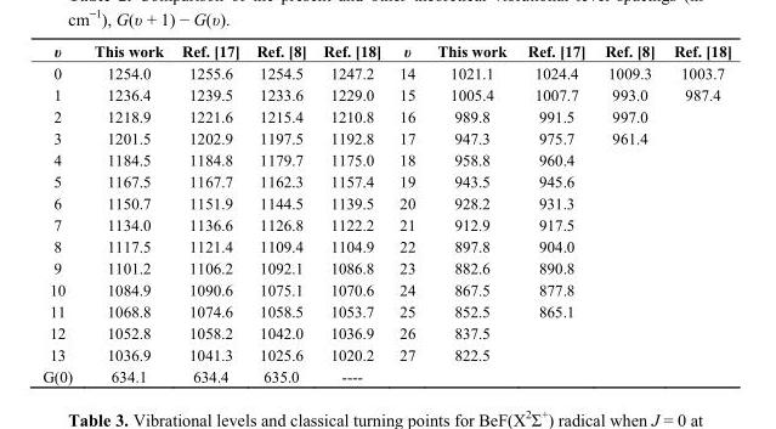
<table><thead><tr><td>υ</td><td>This work</td><td>Ref. [17]</td><td>Ref. [8]</td><td>Ref. [18]</td><td>υ</td><td>This work</td><td>Ref. [17]</td><td>Ref. [8]</td><td>Ref. [18]</td></tr></thead><tbody><tr><td>0</td><td>1254.0</td><td>1255.6</td><td>1254.5</td><td>1247.2</td><td>14</td><td>1021.1</td><td>1024.4</td><td>1009.3</td><td>1003.7</td></tr><tr><td>1</td><td>1236.4</td><td>1239.5</td><td>1233.6</td><td>1229.0</td><td>15</td><td>1005.4</td><td>1007.7</td><td>993.0</td><td>987.4</td></tr><tr><td>2</td><td>1218.9</td><td>1221.6</td><td>1215.4</td><td>1210.8</td><td>16</td><td>989.8</td><td>991.5</td><td>997.0</td><td></td></tr><tr><td>3</td><td>1201.5</td><td>1202.9</td><td>1197.5</td><td>1192.8</td><td>17</td><td>947.3</td><td>975.7</td><td>961.4</td><td></td></tr><tr><td>4</td><td>1184.5</td><td>1184.8</td><td>1179.7</td><td>1175.0</td><td>18</td><td>958.8</td><td>960.4</td><td></td><td></td></tr><tr><td>5</td><td>1167.5</td><td>1167.7</td><td>1162.3</td><td>1157.4</td><td>19</td><td>943.5</td><td>945.6</td><td></td><td></td></tr><tr><td>6</td><td>1150.7</td><td>1151.9</td><td>1144.5</td><td>1139.5</td><td>20</td><td>928.2</td><td>931.3</td><td></td><td></td></tr><tr><td>7</td><td>1134.0</td><td>1136.6</td><td>1126.8</td><td>1122.2</td><td>21</td><td>912.9</td><td>917.5</td><td></td><td></td></tr><tr><td>8</td><td>1117.5</td><td>1121.4</td><td>1109.4</td><td>1104.9</td><td>22</td><td>897.8</td><td>904.0</td><td></td><td></td></tr><tr><td>9</td><td>1101.2</td><td>1106.2</td><td>1092.1</td><td>1086.8</td><td>23</td><td>882.6</td><td>890.8</td><td></td><td></td></tr><tr><td>10</td><td>1084.9</td><td>1090.6</td><td>1075.1</td><td>1070.6</td><td>24</td><td>867.5</td><td>877.8</td><td></td><td></td></tr><tr><td>11</td><td>1068.8</td><td>1074.6</td><td>1058.5</td><td>1053.7</td><td>25</td><td>852.5</td><td>865.1</td><td></td><td></td></tr><tr><td>12</td><td>1052.8</td><td>1058.2</td><td>1042.0</td><td>1036.9</td><td>26</td><td>837.5</td><td></td><td></td><td></td></tr><tr><td>13</td><td>1036.9</td><td>1041.3</td><td>1025.6</td><td>1020.2</td><td>27</td><td>822.5</td><td></td><td></td><td></td></tr><tr><td>G(0)</td><td>634.1</td><td>634.4</td><td>635.0</td><td>----</td><td></td><td></td><td></td><td></td><td></td></tr></tbody></table>